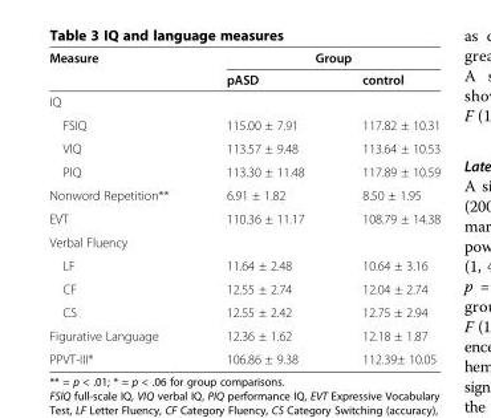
<table><thead><tr><td rowspan="2">Measure</td><td colspan="2">Group</td></tr><tr><td>pASD</td><td>control</td></tr></thead><tbody><tr><td colspan="3">IQ</td></tr><tr><td>FSIQ</td><td>115.00 ± 7.91</td><td>117.82 ± 10.31</td></tr><tr><td>VIQ</td><td>113.57 ± 9.48</td><td>113.64 ± 10.53</td></tr><tr><td>PIQ</td><td>113.30 ± 11.48</td><td>117.89 ± 10.59</td></tr><tr><td>Nonword Repetition**</td><td>6.91 ± 1.82</td><td>8.50 ± 1.95</td></tr><tr><td>EVT</td><td>110.36 ± 11.17</td><td>108.79 ± 14.38</td></tr><tr><td colspan="3">Verbal Fluency</td></tr><tr><td>LF</td><td>11.64 ± 2.48</td><td>10.64 ± 3.16</td></tr><tr><td>CF</td><td>12.55 ± 2.74</td><td>12.04 ± 2.74</td></tr><tr><td>CS</td><td>12.55 ± 2.42</td><td>12.75 ± 2.94</td></tr><tr><td>Figurative Language</td><td>12.36 ± 1.62</td><td>12.18 ± 1.87</td></tr><tr><td>PPVT-III*</td><td>106.86 ± 9.38</td><td>112.39± 10.05</td></tr></tbody></table>